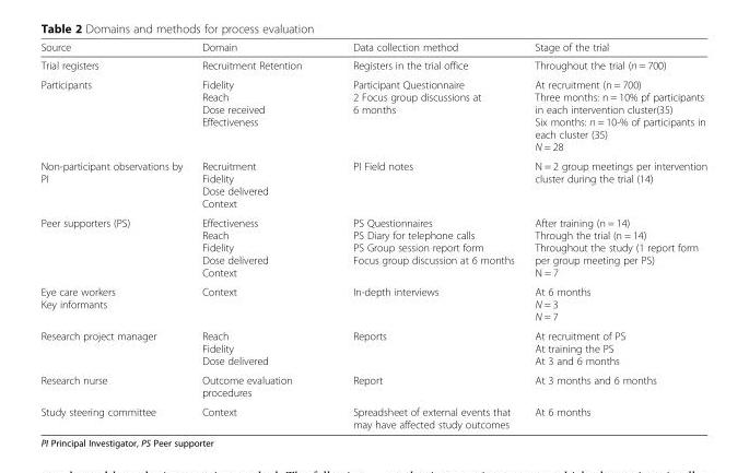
<table><thead><tr><td>Source</td><td>Domain</td><td>Data collection method</td><td>Stage of the trial</td></tr></thead><tbody><tr><td>Trial registers</td><td>Recruitment Retention</td><td>Registers in the trial office</td><td>Throughout the trial (n = 700)</td></tr><tr><td>Participants</td><td>Fidelity Reach Dose received Effectiveness</td><td>Participant Questionnaire 2 Focus group discussions at 6 months</td><td>At recruitment (n = 700) Three months: n = 10% pf participants in each intervention cluster(35) Six months: n = 10-% of participants in each cluster (35) N = 28</td></tr><tr><td>Non-participant observations by PI</td><td>Recruitment Fidelity Dose delivered Context</td><td>PI Field notes</td><td>N = 2 group meetings per intervention cluster during the trial (14)</td></tr><tr><td>Peer supporters (PS)</td><td>Effectiveness Reach Fidelity Dose delivered Context</td><td>PS Questionnaires PS Diary for telephone calls PS Group session report form Focus group discussion at 6 months</td><td>After training (n = 14) Through the trial (n = 14) Throughout the study (1 report form per group meeting per PS) N = 7</td></tr><tr><td>Eye care workers Key informants</td><td>Context</td><td>In-depth interviews</td><td>At 6 months N = 3 N = 7</td></tr><tr><td>Research project manager</td><td>Reach Fidelity Dose delivered</td><td>Reports</td><td>At recruitment of PS At training the PS At 3 and 6 months</td></tr><tr><td>Research nurse</td><td>Outcome evaluation procedures</td><td>Report</td><td>At 3 months and 6 months</td></tr><tr><td>Study steering committee</td><td>Context</td><td>Spreadsheet of external events that may have affected study outcomes</td><td>At 6 months</td></tr></tbody></table>